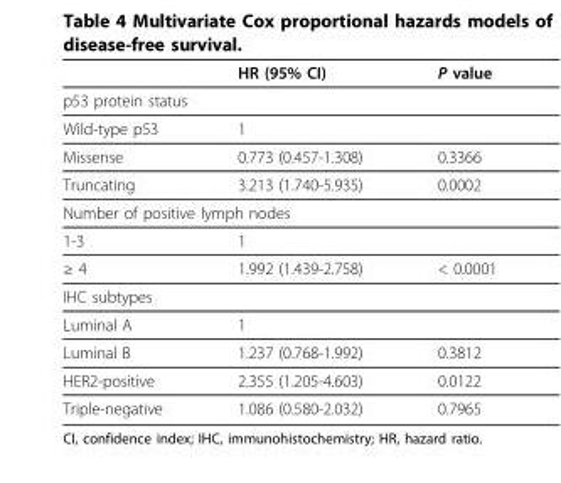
<table><thead><tr><td></td><td>HR (95% CI)</td><td>P value</td></tr></thead><tbody><tr><td colspan="3">p53 protein status</td></tr><tr><td>Wild-type p53</td><td>1</td><td></td></tr><tr><td>Missense</td><td>0.773 (0.457-1.308)</td><td>0.3366</td></tr><tr><td>Truncating</td><td>3.213 (1.740-5.935)</td><td>0.0002</td></tr><tr><td colspan="3">Number of positive lymph nodes</td></tr><tr><td>1-3</td><td>1</td><td></td></tr><tr><td>≥ 4</td><td>1.992 (1.439-2.758)</td><td>&lt; 0.0001</td></tr><tr><td colspan="3">IHC subtypes</td></tr><tr><td>Luminal A</td><td>1</td><td></td></tr><tr><td>Luminal B</td><td>1.237 (0.768-1.992)</td><td>0.3812</td></tr><tr><td>HER2-positive</td><td>2.355 (1.205-4.603)</td><td>0.0122</td></tr><tr><td>Triple-negative</td><td>1.086 (0.580-2.032)</td><td>0.7965</td></tr></tbody></table>